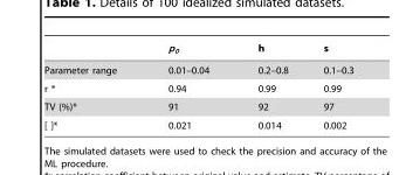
<table><thead><tr><td></td><td>p<sub>0</sub></td><td>h</td><td>s</td></tr></thead><tbody><tr><td>Parameter range</td><td>0.01–0.04</td><td>0.2–0.8</td><td>0.1–0.3</td></tr><tr><td>r *</td><td>0.94</td><td>0.99</td><td>0.99</td></tr><tr><td>TV (%)*</td><td>91</td><td>92</td><td>97</td></tr><tr><td>[ ]*</td><td>0.021</td><td>0.014</td><td>0.002</td></tr></tbody></table>